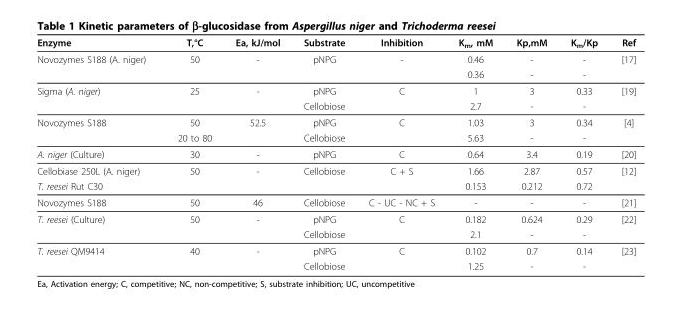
<table><thead><tr><td>Enzyme</td><td>T,°C</td><td>Ea, kJ/mol</td><td>Substrate</td><td>Inhibition</td><td>K<sub>m</sub>, mM</td><td>Kp,mM</td><td>K<sub>m</sub>/Kp</td><td>Ref</td></tr></thead><tbody><tr><td rowspan="2">Novozymes S188 (A. niger)</td><td>50</td><td>-</td><td>pNPG</td><td>-</td><td>0.46</td><td>-</td><td>-</td><td>[17]</td></tr><tr><td></td><td></td><td></td><td></td><td>0.36</td><td>-</td><td>-</td><td></td></tr><tr><td rowspan="2">Sigma (A. niger)</td><td>25</td><td>-</td><td>pNPG</td><td>C</td><td>1</td><td>3</td><td>0.33</td><td>[19]</td></tr><tr><td></td><td></td><td>Cellobiose</td><td></td><td>2.7</td><td>-</td><td>-</td><td></td></tr><tr><td rowspan="2">Novozymes S188</td><td>50</td><td>52.5</td><td>pNPG</td><td>C</td><td>1.03</td><td>3</td><td>0.34</td><td>[4]</td></tr><tr><td>20 to 80</td><td></td><td>Cellobiose</td><td></td><td>5.63</td><td>-</td><td>-</td><td></td></tr><tr><td>A. niger (Culture)</td><td>30</td><td>-</td><td>pNPG</td><td>C</td><td>0.64</td><td>3.4</td><td>0.19</td><td>[20]</td></tr><tr><td>Cellobiase 250L (A. niger)</td><td>50</td><td>-</td><td>Cellobiose</td><td>C + S</td><td>1.66</td><td>2.87</td><td>0.57</td><td>[12]</td></tr><tr><td>T. reesei Rut C30</td><td></td><td></td><td></td><td></td><td>0.153</td><td>0.212</td><td>0.72</td><td></td></tr><tr><td>Novozymes S188</td><td>50</td><td>46</td><td>Cellobiose</td><td>C - UC - NC + S</td><td>-</td><td>-</td><td>-</td><td>[21]</td></tr><tr><td rowspan="2">T. reesei (Culture)</td><td>50</td><td>-</td><td>pNPG</td><td>C</td><td>0.182</td><td>0.624</td><td>0.29</td><td>[22]</td></tr><tr><td></td><td></td><td>Cellobiose</td><td></td><td>2.1</td><td>-</td><td>-</td><td></td></tr><tr><td rowspan="2">T. reesei QM9414</td><td>40</td><td>-</td><td>pNPG</td><td>C</td><td>0.102</td><td>0.7</td><td>0.14</td><td>[23]</td></tr><tr><td></td><td></td><td>Cellobiose</td><td></td><td>1.25</td><td>-</td><td>-</td><td></td></tr></tbody></table>